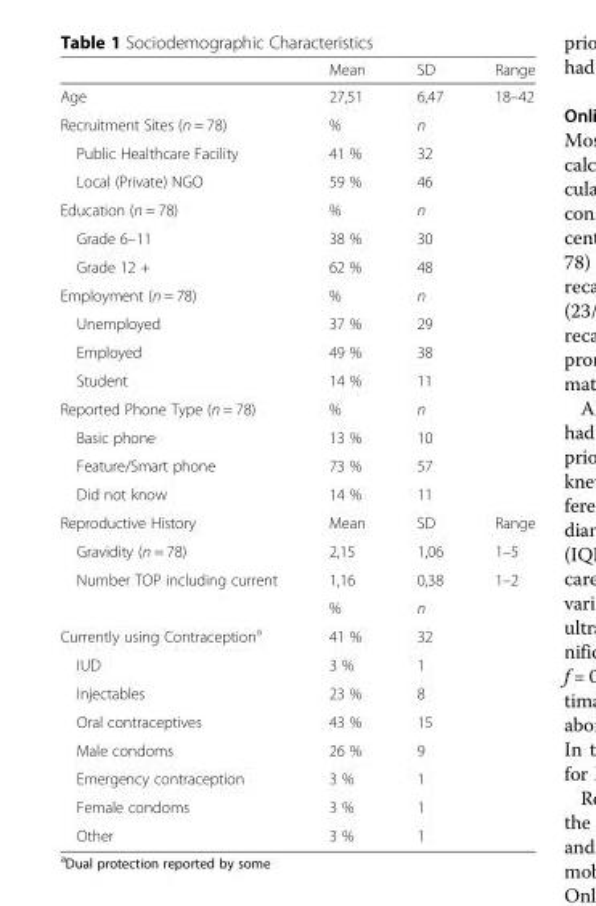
<table><thead><tr><td></td><td>Mean</td><td>SD</td><td>Range</td></tr></thead><tbody><tr><td>Age</td><td>27,51</td><td>6,47</td><td>18–42</td></tr><tr><td>Recruitment Sites (n = 78)</td><td>%</td><td colspan="2">n</td></tr><tr><td>Public Healthcare Facility</td><td>41 %</td><td colspan="2">32</td></tr><tr><td>Local (Private) NGO</td><td>59 %</td><td colspan="2">46</td></tr><tr><td>Education (n = 78)</td><td>%</td><td colspan="2">n</td></tr><tr><td>Grade 6–11</td><td>38 %</td><td colspan="2">30</td></tr><tr><td>Grade 12 +</td><td>62 %</td><td colspan="2">48</td></tr><tr><td>Employment (n = 78)</td><td>%</td><td colspan="2">n</td></tr><tr><td>Unemployed</td><td>37 %</td><td colspan="2">29</td></tr><tr><td>Employed</td><td>49 %</td><td colspan="2">38</td></tr><tr><td>Student</td><td>14 %</td><td colspan="2">11</td></tr><tr><td>Reported Phone Type (n = 78)</td><td>%</td><td colspan="2">n</td></tr><tr><td>Basic phone</td><td>13 %</td><td colspan="2">10</td></tr><tr><td>Feature/Smart phone</td><td>73 %</td><td colspan="2">57</td></tr><tr><td>Did not know</td><td>14 %</td><td colspan="2">11</td></tr><tr><td>Reproductive History</td><td>Mean</td><td>SD</td><td>Range</td></tr><tr><td>Gravidity (n = 78)</td><td>2,15</td><td>1,06</td><td>1–5</td></tr><tr><td rowspan="2">Number TOP including current</td><td>1,16</td><td>0,38</td><td>1–2</td></tr><tr><td>%</td><td colspan="2">n</td></tr><tr><td>Currently using Contraception<sup>a</sup></td><td>41 %</td><td colspan="2">32</td></tr><tr><td>IUD</td><td>3 %</td><td colspan="2">1</td></tr><tr><td>Injectables</td><td>23 %</td><td colspan="2">8</td></tr><tr><td>Oral contraceptives</td><td>43 %</td><td colspan="2">15</td></tr><tr><td>Male condoms</td><td>26 %</td><td colspan="2">9</td></tr><tr><td>Emergency contraception</td><td>3 %</td><td colspan="2">1</td></tr><tr><td>Female condoms</td><td>3 %</td><td colspan="2">1</td></tr><tr><td>Other</td><td>3 %</td><td colspan="2">1</td></tr></tbody></table>